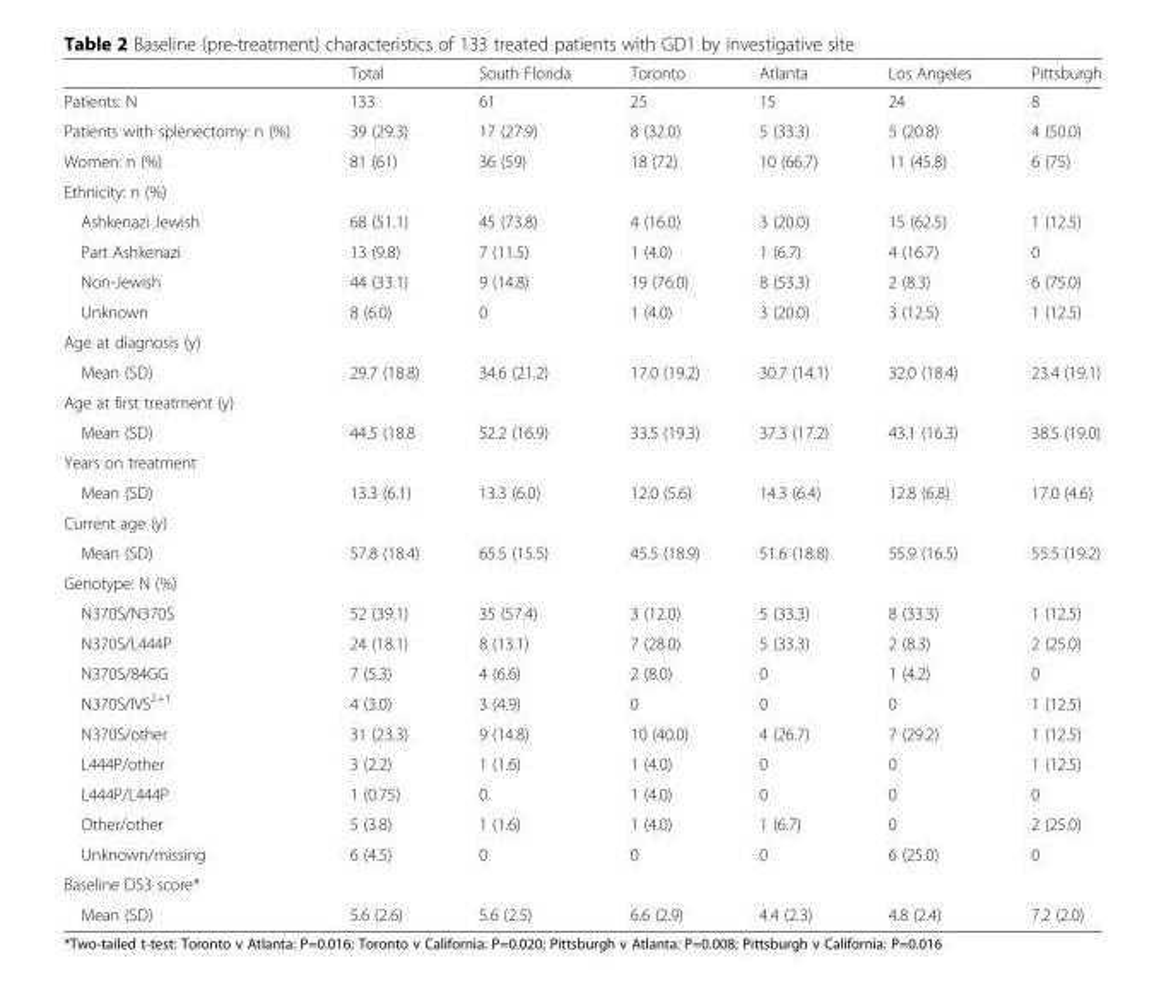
<table><thead><tr><td></td><td>Total</td><td>South Florida</td><td>Toronto</td><td>Atlanta</td><td>Los Angeles</td><td>Pittsburgh</td></tr></thead><tbody><tr><td>Patients: N</td><td>133</td><td>61</td><td>25</td><td>15</td><td>24</td><td>8</td></tr><tr><td>Patients with splenectomy: n (%)</td><td>39 (29.3)</td><td>17 (27.9)</td><td>8 (32.0)</td><td>5 (33.3)</td><td>5 (20.8)</td><td>4 (50.0)</td></tr><tr><td>Women: n (%)</td><td>81 (61)</td><td>36 (59)</td><td>18 (72)</td><td>10 (66.7)</td><td>11 (45.8)</td><td>6 (75)</td></tr><tr><td colspan="7">Ethnicity: n (%)</td></tr><tr><td>Ashkenazi Jewish</td><td>68 (51.1)</td><td>45 (73.8)</td><td>4 (16.0)</td><td>3 (20.0)</td><td>15 (62.5)</td><td>1 (12.5)</td></tr><tr><td>Part Ashkenazi</td><td>13 (9.8)</td><td>7 (11.5)</td><td>1 (4.0)</td><td>1 (6.7)</td><td>4 (16.7)</td><td>0</td></tr><tr><td>Non-Jewish</td><td>44 (33.1)</td><td>9 (14.8)</td><td>19 (76.0)</td><td>8 (53.3)</td><td>2 (8.3)</td><td>6 (75.0)</td></tr><tr><td>Unknown</td><td>8 (6.0)</td><td>0</td><td>1 (4.0)</td><td>3 (20.0)</td><td>3 (12.5)</td><td>1 (12.5)</td></tr><tr><td colspan="7">Age at diagnosis (y)</td></tr><tr><td>Mean (SD)</td><td>29.7 (18.8)</td><td>34.6 (21.2)</td><td>17.0 (19.2)</td><td>30.7 (14.1)</td><td>32.0 (18.4)</td><td>23.4 (19.1)</td></tr><tr><td colspan="7">Age at first treatment (y)</td></tr><tr><td>Mean (SD)</td><td>44.5 (18.8</td><td>52.2 (16.9)</td><td>33.5 (19.3)</td><td>37.3 (17.2)</td><td>43.1 (16.3)</td><td>38.5 (19.0)</td></tr><tr><td colspan="7">Years on treatment</td></tr><tr><td>Mean (SD)</td><td>13.3 (6.1)</td><td>13.3 (6.0)</td><td>12.0 (5.6)</td><td>14.3 (6.4)</td><td>12.8 (6.8)</td><td>17.0 (4.6)</td></tr><tr><td colspan="7">Current age (y)</td></tr><tr><td>Mean (SD)</td><td>57.8 (18.4)</td><td>65.5 (15.5)</td><td>45.5 (18.9)</td><td>51.6 (18.8)</td><td>55.9 (16.5)</td><td>55.5 (19.2)</td></tr><tr><td colspan="7">Genotype: N (%)</td></tr><tr><td>N370S/N370S</td><td>52 (39.1)</td><td>35 (57.4)</td><td>3 (12.0)</td><td>5 (33.3)</td><td>8 (33.3)</td><td>1 (12.5)</td></tr><tr><td>N370S/L444P</td><td>24 (18.1)</td><td>8 (13.1)</td><td>7 (28.0)</td><td>5 (33.3)</td><td>2 (8.3)</td><td>2 (25.0)</td></tr><tr><td>N370S/84GG</td><td>7 (5.3)</td><td>4 (6.6)</td><td>2 (8.0)</td><td>0</td><td>1 (4.2)</td><td>0</td></tr><tr><td>N370S/IVS<sup>2+1</sup></td><td>4 (3.0)</td><td>3 (4.9)</td><td>0</td><td>0</td><td>0</td><td>1 (12.5)</td></tr><tr><td>N370S/other</td><td>31 (23.3)</td><td>9 (14.8)</td><td>10 (40.0)</td><td>4 (26.7)</td><td>7 (29.2)</td><td>1 (12.5)</td></tr><tr><td>L444P/other</td><td>3 (2.2)</td><td>1 (1.6)</td><td>1 (4.0)</td><td>0</td><td>0</td><td>1 (12.5)</td></tr><tr><td>L444P/L444P</td><td>1 (0.75)</td><td>0</td><td>1 (4.0)</td><td>0</td><td>0</td><td>0</td></tr><tr><td>Other/other</td><td>5 (3.8)</td><td>1 (1.6)</td><td>1 (4.0)</td><td>1 (6.7)</td><td>0</td><td>2 (25.0)</td></tr><tr><td>Unknown/missing</td><td>6 (4.5)</td><td>0</td><td>0</td><td>0</td><td>6 (25.0)</td><td>0</td></tr><tr><td colspan="7">Baseline DS3 score*</td></tr><tr><td>Mean (SD)</td><td>5.6 (2.6)</td><td>5.6 (2.5)</td><td>6.6 (2.9)</td><td>4.4 (2.3)</td><td>4.8 (2.4)</td><td>7.2 (2.0)</td></tr></tbody></table>